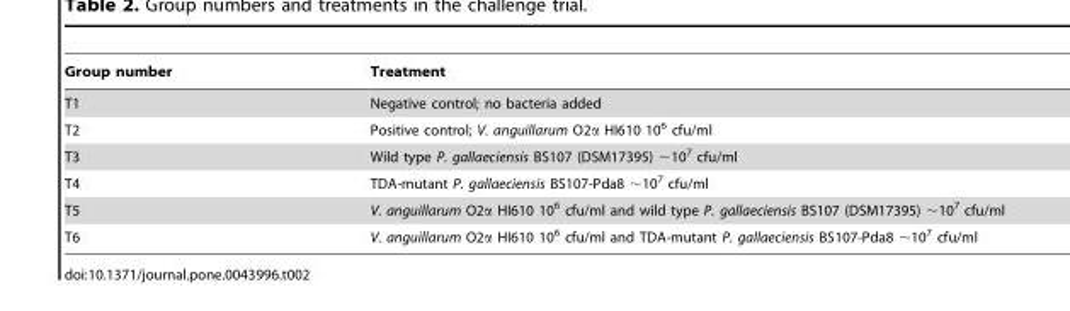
<table><thead><tr><td>Group number</td><td>Treatment</td></tr></thead><tbody><tr><td>T1</td><td>Negative control; no bacteria added</td></tr><tr><td>T2</td><td>Positive control; V. anguillarum O2α HI610 10<sup>6</sup> cfu/ml</td></tr><tr><td>T3</td><td>Wild type P. gallaeciensis BS107 (DSM17395) ∼10<sup>7</sup> cfu/ml</td></tr><tr><td>T4</td><td>TDA-mutant P. gallaeciensis BS107-Pda8 ∼10<sup>7</sup> cfu/ml</td></tr><tr><td>T5</td><td>V. anguillarum O2α HI610 10<sup>6</sup> cfu/ml and wild type P. gallaeciensis BS107 (DSM17395) ∼10<sup>7</sup> cfu/ml</td></tr><tr><td>T6</td><td>V. anguillarum O2α HI610 10<sup>6</sup> cfu/ml and TDA-mutant P. gallaeciensis BS107-Pda8 ∼10<sup>7</sup> cfu/ml</td></tr></tbody></table>